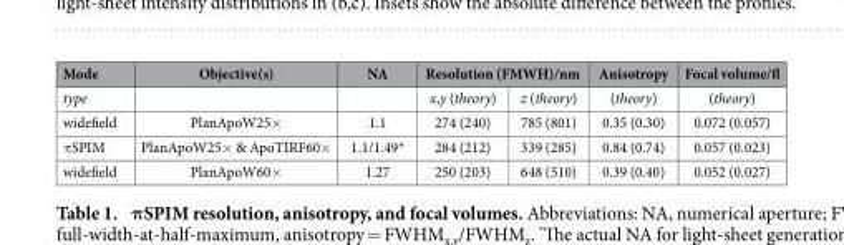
<table><thead><tr><td rowspan="2">Mode type</td><td rowspan="2">Objective(s)</td><td rowspan="2">NA</td><td colspan="2">Resolution (FMWH)/nm</td><td rowspan="2">Anisotropy (theory)</td><td rowspan="2">Focal volume/fl (theory)</td></tr><tr><td>x,y (theory)</td><td>z (theory)</td></tr></thead><tbody><tr><td>widefield</td><td>PlanApoW25×</td><td>1.1</td><td>274 (240)</td><td>785 (801)</td><td>0.35 (0.30)</td><td>0.072 (0.057)</td></tr><tr><td>π SPIM</td><td>PlanApoW25× &amp; ApoTIRF60×</td><td>1.1/1.49*</td><td>284 (212)</td><td>339 (285)</td><td>0.84 (0.74)</td><td>0.057 (0.023)</td></tr><tr><td>widefield</td><td>PlanApoW60×</td><td>1.27</td><td>250 (203)</td><td>648 (510)</td><td>0.39 (0.40)</td><td>0.052 (0.027)</td></tr></tbody></table>